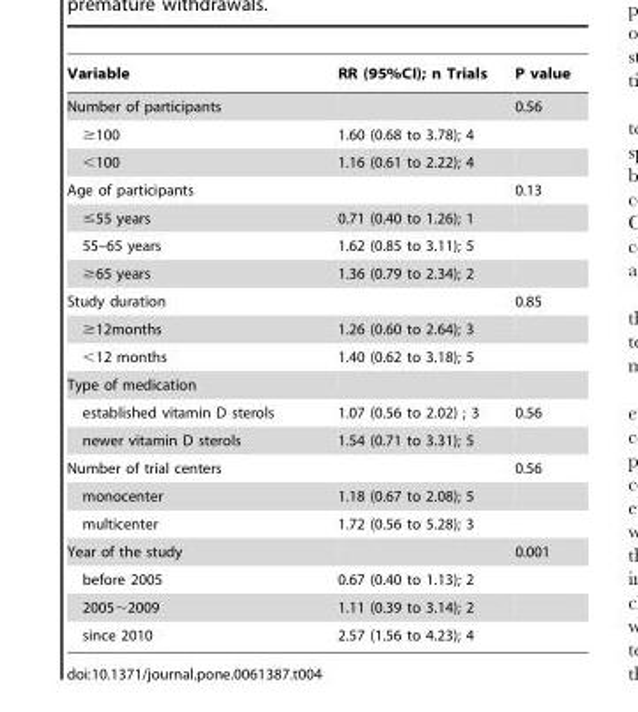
<table><thead><tr><td>Variable</td><td>RR (95%CI); n Trials</td><td>P value</td></tr></thead><tbody><tr><td>Number of participants</td><td></td><td>0.56</td></tr><tr><td>≥100</td><td>1.60 (0.68 to 3.78); 4</td><td></td></tr><tr><td>&lt;100</td><td>1.16 (0.61 to 2.22); 4</td><td></td></tr><tr><td>Age of participants</td><td></td><td>0.13</td></tr><tr><td>≤55 years</td><td>0.71 (0.40 to 1.26); 1</td><td></td></tr><tr><td>55–65 years</td><td>1.62 (0.85 to 3.11); 5</td><td></td></tr><tr><td>≥65 years</td><td>1.36 (0.79 to 2.34); 2</td><td></td></tr><tr><td>Study duration</td><td></td><td>0.85</td></tr><tr><td>≥12months</td><td>1.26 (0.60 to 2.64); 3</td><td></td></tr><tr><td>&lt;12 months</td><td>1.40 (0.62 to 3.18); 5</td><td></td></tr><tr><td colspan="3">Type of medication</td></tr><tr><td>established vitamin D sterols</td><td>1.07 (0.56 to 2.02) ; 3</td><td>0.56</td></tr><tr><td>newer vitamin D sterols</td><td>1.54 (0.71 to 3.31); 5</td><td></td></tr><tr><td>Number of trial centers</td><td></td><td>0.56</td></tr><tr><td>monocenter</td><td>1.18 (0.67 to 2.08); 5</td><td></td></tr><tr><td>multicenter</td><td>1.72 (0.56 to 5.28); 3</td><td></td></tr><tr><td>Year of the study</td><td></td><td>0.001</td></tr><tr><td>before 2005</td><td>0.67 (0.40 to 1.13); 2</td><td></td></tr><tr><td>2005∼2009</td><td>1.11 (0.39 to 3.14); 2</td><td></td></tr><tr><td>since 2010</td><td>2.57 (1.56 to 4.23); 4</td><td></td></tr></tbody></table>